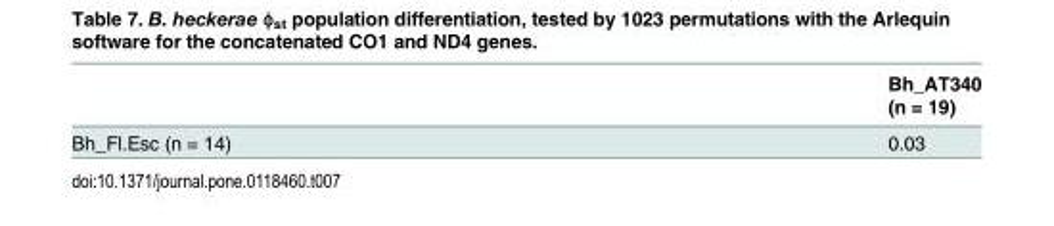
<table><thead><tr><td rowspan="2"></td><td rowspan="2">Bh_AT340 (n = 19)</td></tr><tr></tr></thead><tbody><tr><td>Bh_Fl.Esc (n = 14)</td><td>0.03</td></tr></tbody></table>